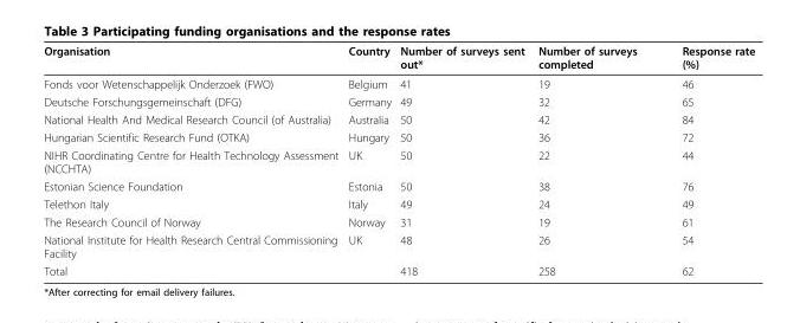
<table><thead><tr><td>Organisation</td><td>Country</td><td>Number of surveys sent out*</td><td>Number of surveys completed</td><td>Response rate (%)</td></tr></thead><tbody><tr><td>Fonds voor Wetenschappelijk Onderzoek (FWO)</td><td>Belgium</td><td>41</td><td>19</td><td>46</td></tr><tr><td>Deutsche Forschungsgemeinschaft (DFG)</td><td>Germany</td><td>49</td><td>32</td><td>65</td></tr><tr><td>National Health And Medical Research Council (of Australia)</td><td>Australia</td><td>50</td><td>42</td><td>84</td></tr><tr><td>Hungarian Scientific Research Fund (OTKA)</td><td>Hungary</td><td>50</td><td>36</td><td>72</td></tr><tr><td>NIHR Coordinating Centre for Health Technology Assessment (NCCHTA)</td><td>UK</td><td>50</td><td>22</td><td>44</td></tr><tr><td>Estonian Science Foundation</td><td>Estonia</td><td>50</td><td>38</td><td>76</td></tr><tr><td>Telethon Italy</td><td>Italy</td><td>49</td><td>24</td><td>49</td></tr><tr><td>The Research Council of Norway</td><td>Norway</td><td>31</td><td>19</td><td>61</td></tr><tr><td>National Institute for Health Research Central Commissioning Facility</td><td>UK</td><td>48</td><td>26</td><td>54</td></tr><tr><td>Total</td><td></td><td>418</td><td>258</td><td>62</td></tr></tbody></table>